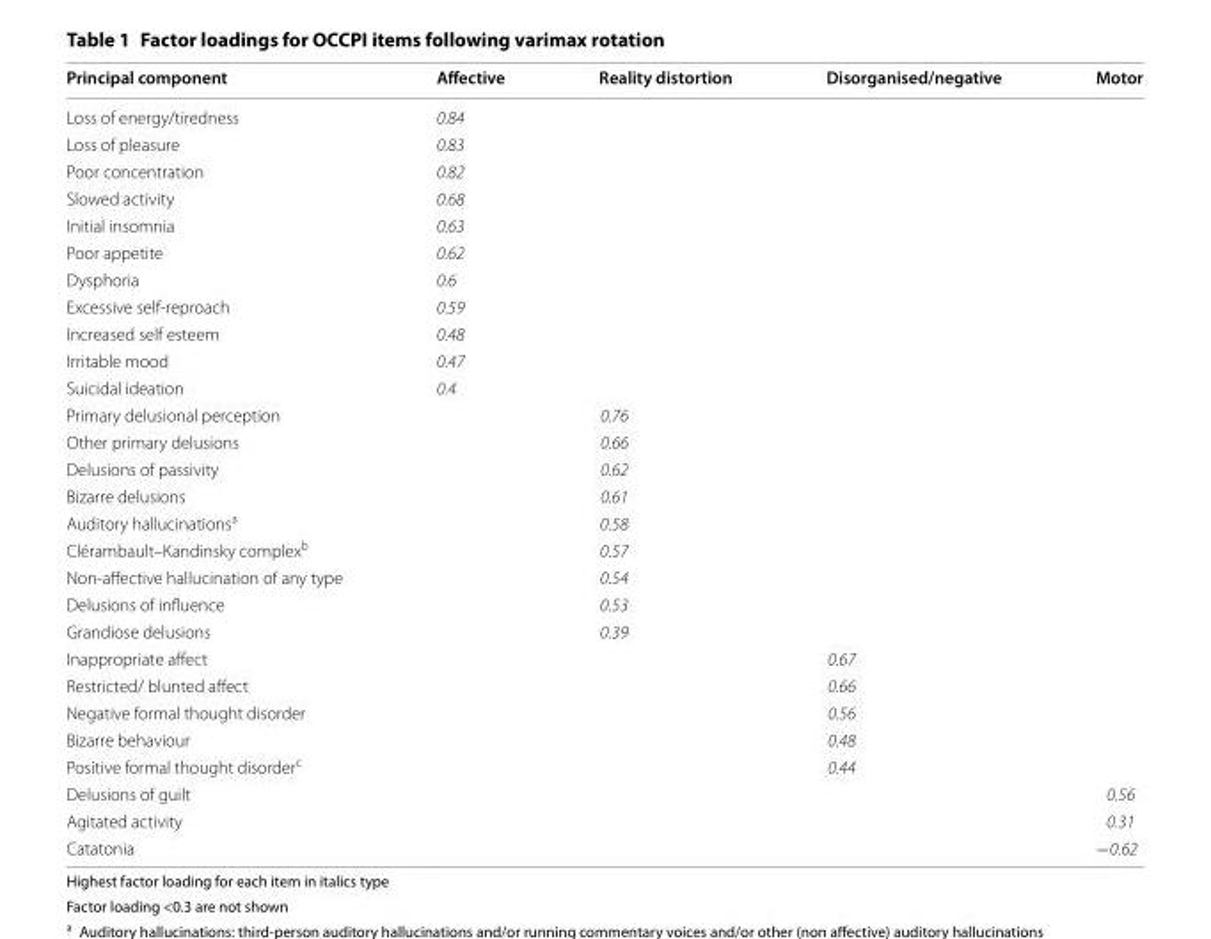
<table><thead><tr><td>Principal component</td><td>Affective</td><td>Reality distortion</td><td>Disorganised/negative</td><td>Motor</td></tr></thead><tbody><tr><td>Loss of energy/tiredness</td><td>0.84</td><td></td><td></td><td></td></tr><tr><td>Loss of pleasure</td><td>0.83</td><td></td><td></td><td></td></tr><tr><td>Poor concentration</td><td>0.82</td><td></td><td></td><td></td></tr><tr><td>Slowed activity</td><td>0.68</td><td></td><td></td><td></td></tr><tr><td>Initial insomnia</td><td>0.63</td><td></td><td></td><td></td></tr><tr><td>Poor appetite</td><td>0.62</td><td></td><td></td><td></td></tr><tr><td>Dysphoria</td><td>0.6</td><td></td><td></td><td></td></tr><tr><td>Excessive self-reproach</td><td>0.59</td><td></td><td></td><td></td></tr><tr><td>Increased self esteem</td><td>0.48</td><td></td><td></td><td></td></tr><tr><td>Irritable mood</td><td>0.47</td><td></td><td></td><td></td></tr><tr><td>Suicidal ideation</td><td>0.4</td><td></td><td></td><td></td></tr><tr><td>Primary delusional perception</td><td></td><td>0.76</td><td></td><td></td></tr><tr><td>Other primary delusions</td><td></td><td>0.66</td><td></td><td></td></tr><tr><td>Delusions of passivity</td><td></td><td>0.62</td><td></td><td></td></tr><tr><td>Bizarre delusions</td><td></td><td>0.61</td><td></td><td></td></tr><tr><td>Auditory hallucinations<sup>a</sup></td><td></td><td>0.58</td><td></td><td></td></tr><tr><td>Clérambault–Kandinsky complex<sup>b</sup></td><td></td><td>0.57</td><td></td><td></td></tr><tr><td>Non-affective hallucination of any type</td><td></td><td>0.54</td><td></td><td></td></tr><tr><td>Delusions of influence</td><td></td><td>0.53</td><td></td><td></td></tr><tr><td>Grandiose delusions</td><td></td><td>0.39</td><td></td><td></td></tr><tr><td>Inappropriate affect</td><td></td><td></td><td>0.67</td><td></td></tr><tr><td>Restricted/ blunted affect</td><td></td><td></td><td>0.66</td><td></td></tr><tr><td>Negative formal thought disorder</td><td></td><td></td><td>0.56</td><td></td></tr><tr><td>Bizarre behaviour</td><td></td><td></td><td>0.48</td><td></td></tr><tr><td>Positive formal thought disorder<sup>c</sup></td><td></td><td></td><td>0.44</td><td></td></tr><tr><td>Delusions of guilt</td><td></td><td></td><td></td><td>0.56</td></tr><tr><td>Agitated activity</td><td></td><td></td><td></td><td>0.31</td></tr><tr><td>Catatonia</td><td></td><td></td><td></td><td>−0.62</td></tr></tbody></table>